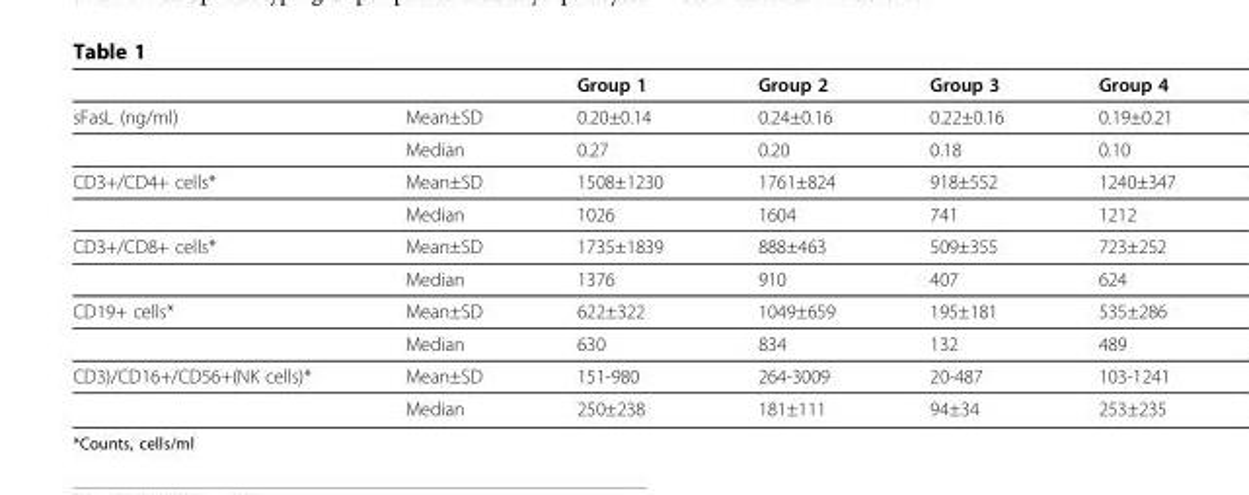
<table><thead><tr><td></td><td></td><td>Group 1</td><td>Group 2</td><td>Group 3</td><td>Group 4</td></tr></thead><tbody><tr><td rowspan="2">sFasL (ng/ml)</td><td>Mean±SD</td><td>0.20±0.14</td><td>0.24±0.16</td><td>0.22±0.16</td><td>0.19±0.21</td></tr><tr><td>Median</td><td>0.27</td><td>0.20</td><td>0.18</td><td>0.10</td></tr><tr><td rowspan="2">CD3+/CD4+ cells*</td><td>Mean±SD</td><td>1508±1230</td><td>1761±824</td><td>918±552</td><td>1240±347</td></tr><tr><td>Median</td><td>1026</td><td>1604</td><td>741</td><td>1212</td></tr><tr><td rowspan="2">CD3+/CD8+ cells*</td><td>Mean±SD</td><td>1735±1839</td><td>888±463</td><td>509±355</td><td>723±252</td></tr><tr><td>Median</td><td>1376</td><td>910</td><td>407</td><td>624</td></tr><tr><td rowspan="2">CD19+ cells*</td><td>Mean±SD</td><td>622±322</td><td>1049±659</td><td>195±181</td><td>535±286</td></tr><tr><td>Median</td><td>630</td><td>834</td><td>132</td><td>489</td></tr><tr><td rowspan="2">CD3)/CD16+/CD56+(NK cells)*</td><td>Mean±SD</td><td>151-980</td><td>264-3009</td><td>20-487</td><td>103-1241</td></tr><tr><td>Median</td><td>250±238</td><td>181±111</td><td>94±34</td><td>253±235</td></tr></tbody></table>